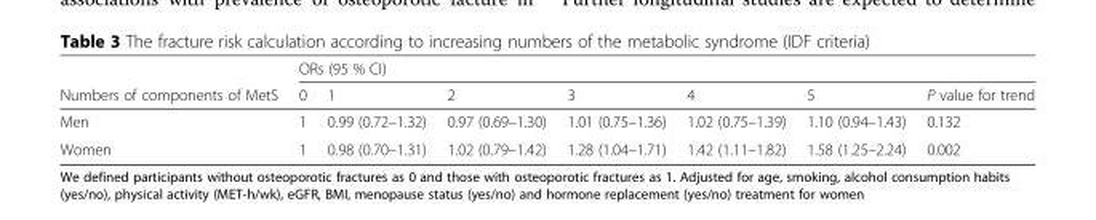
<table><thead><tr><td rowspan="2">Numbers of components of MetS</td><td colspan="7">ORs (95 % CI)</td></tr><tr><td>0</td><td>1</td><td>2</td><td>3</td><td>4</td><td>5</td><td>P value for trend</td></tr></thead><tbody><tr><td>Men</td><td>1</td><td>0.99 (0.72–1.32)</td><td>0.97 (0.69–1.30)</td><td>1.01 (0.75–1.36)</td><td>1.02 (0.75–1.39)</td><td>1.10 (0.94–1.43)</td><td>0.132</td></tr><tr><td>Women</td><td>1</td><td>0.98 (0.70–1.31)</td><td>1.02 (0.79–1.42)</td><td>1.28 (1.04–1.71)</td><td>1.42 (1.11–1.82)</td><td>1.58 (1.25–2.24)</td><td>0.002</td></tr></tbody></table>